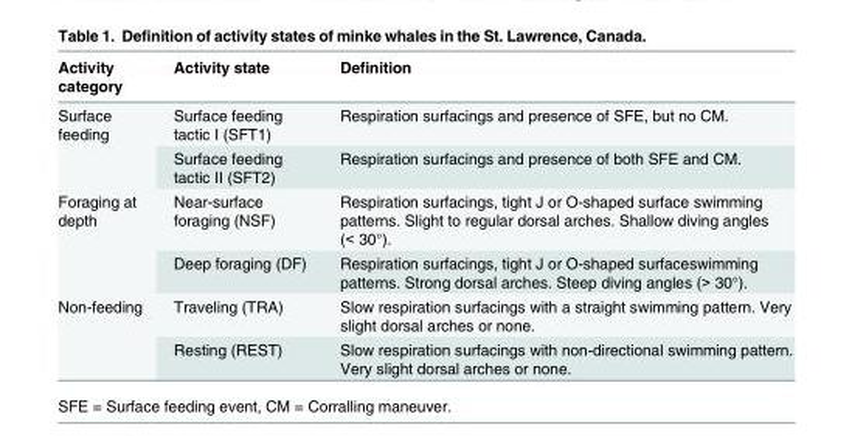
<table><thead><tr><td>Activity category</td><td>Activity state</td><td>Definition</td></tr></thead><tbody><tr><td rowspan="2">Surface feeding</td><td>Surface feeding tactic I (SFT1)</td><td>Respiration surfacings and presence of SFE, but no CM.</td></tr><tr><td>Surface feeding tactic II (SFT2)</td><td>Respiration surfacings and presence of both SFE and CM.</td></tr><tr><td rowspan="2">Foraging at depth</td><td>Near-surface foraging (NSF)</td><td>Respiration surfacings, tight J or O-shaped surface swimming patterns. Slight to regular dorsal arches. Shallow diving angles (&lt; 30°).</td></tr><tr><td>Deep foraging (DF)</td><td>Respiration surfacings, tight J or O-shaped surfaceswimming patterns. Strong dorsal arches. Steep diving angles (&gt; 30°).</td></tr><tr><td rowspan="2">Non-feeding</td><td>Traveling (TRA)</td><td>Slow respiration surfacings with a straight swimming pattern. Very slight dorsal arches or none.</td></tr><tr><td>Resting (REST)</td><td>Slow respiration surfacings with non-directional swimming pattern. Very slight dorsal arches or none.</td></tr></tbody></table>